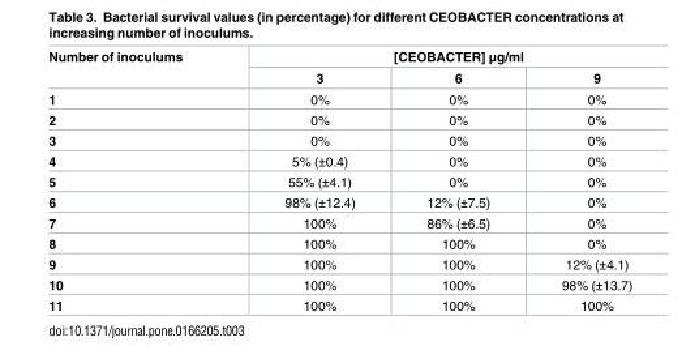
<table><thead><tr><td rowspan="2">Number of inoculums</td><td colspan="3">[CEOBACTER] μg/ml</td></tr><tr><td>3</td><td>6</td><td>9</td></tr></thead><tbody><tr><td>1</td><td>0%</td><td>0%</td><td>0%</td></tr><tr><td>2</td><td>0%</td><td>0%</td><td>0%</td></tr><tr><td>3</td><td>0%</td><td>0%</td><td>0%</td></tr><tr><td>4</td><td>5% (±0.4)</td><td>0%</td><td>0%</td></tr><tr><td>5</td><td>55% (±4.1)</td><td>0%</td><td>0%</td></tr><tr><td>6</td><td>98% (±12.4)</td><td>12% (±7.5)</td><td>0%</td></tr><tr><td>7</td><td>100%</td><td>86% (±6.5)</td><td>0%</td></tr><tr><td>8</td><td>100%</td><td>100%</td><td>0%</td></tr><tr><td>9</td><td>100%</td><td>100%</td><td>12% (±4.1)</td></tr><tr><td>10</td><td>100%</td><td>100%</td><td>98% (±13.7)</td></tr><tr><td>11</td><td>100%</td><td>100%</td><td>100%</td></tr></tbody></table>